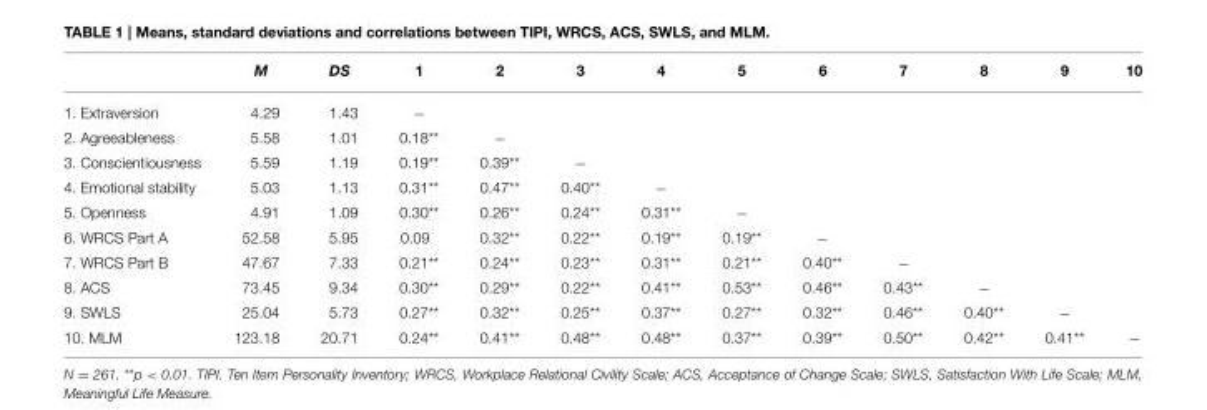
<table><thead><tr><td></td><td>M</td><td>DS</td><td>1</td><td>2</td><td>3</td><td>4</td><td>5</td><td>6</td><td>7</td><td>8</td><td>9</td><td>10</td></tr></thead><tbody><tr><td>1. Extraversion</td><td>4.29</td><td>1.43</td><td>−</td><td></td><td></td><td></td><td></td><td></td><td></td><td></td><td></td><td></td></tr><tr><td>2. Agreeableness</td><td>5.58</td><td>1.01</td><td>0.18**</td><td>−</td><td></td><td></td><td></td><td></td><td></td><td></td><td></td><td></td></tr><tr><td>3. Conscientiousness</td><td>5.59</td><td>1.19</td><td>0.19**</td><td>0.39**</td><td>−</td><td></td><td></td><td></td><td></td><td></td><td></td><td></td></tr><tr><td>4. Emotional stability</td><td>5.03</td><td>1.13</td><td>0.31**</td><td>0.47**</td><td>0.40**</td><td>−</td><td></td><td></td><td></td><td></td><td></td><td></td></tr><tr><td>5. Openness</td><td>4.91</td><td>1.09</td><td>0.30**</td><td>0.26**</td><td>0.24**</td><td>0.31**</td><td>−</td><td></td><td></td><td></td><td></td><td></td></tr><tr><td>6. WRCS Part A</td><td>52.58</td><td>5.95</td><td>0.09</td><td>0.32**</td><td>0.22**</td><td>0.19**</td><td>0.19**</td><td>−</td><td></td><td></td><td></td><td></td></tr><tr><td>7. WRCS Part B</td><td>47.67</td><td>7.33</td><td>0.21**</td><td>0.24**</td><td>0.23**</td><td>0.31**</td><td>0.21**</td><td>0.40**</td><td>−</td><td></td><td></td><td></td></tr><tr><td>8. ACS</td><td>73.45</td><td>9.34</td><td>0.30**</td><td>0.29**</td><td>0.22**</td><td>0.41**</td><td>0.53**</td><td>0.46**</td><td>0.43**</td><td>−</td><td></td><td></td></tr><tr><td>9. SWLS</td><td>25.04</td><td>5.73</td><td>0.27**</td><td>0.32**</td><td>0.25**</td><td>0.37**</td><td>0.27**</td><td>0.32**</td><td>0.46**</td><td>0.40**</td><td>−</td><td></td></tr><tr><td>10. MLM</td><td>123.18</td><td>20.71</td><td>0.24**</td><td>0.41**</td><td>0.48**</td><td>0.48**</td><td>0.37**</td><td>0.39**</td><td>0.50**</td><td>0.42**</td><td>0.41**</td><td>−</td></tr></tbody></table>